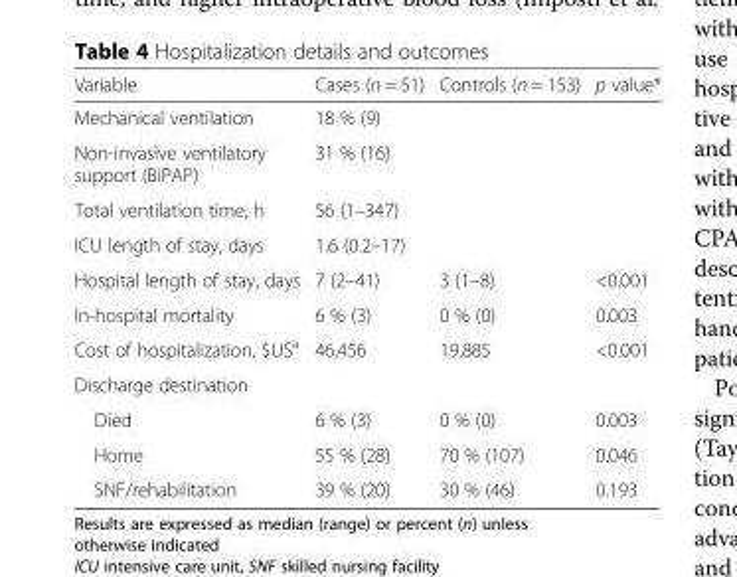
<table><thead><tr><td>Variable</td><td>Cases (n = 51)</td><td>Controls (n = 153)</td><td>p value*</td></tr></thead><tbody><tr><td>Mechanical ventilation</td><td>18 % (9)</td><td></td><td></td></tr><tr><td>Non-invasive ventilatory support (BiPAP)</td><td>31 % (16)</td><td></td><td></td></tr><tr><td>Total ventilation time, h</td><td>56 (1–347)</td><td></td><td></td></tr><tr><td>ICU length of stay, days</td><td>1.6 (0.2–17)</td><td></td><td></td></tr><tr><td>Hospital length of stay, days</td><td>7 (2–41)</td><td>3 (1–8)</td><td>&lt;0.001</td></tr><tr><td>In-hospital mortality</td><td>6 % (3)</td><td>0 % (0)</td><td>0.003</td></tr><tr><td>Cost of hospitalization, $US<sup>a</sup></td><td>46,456</td><td>19,885</td><td>&lt;0.001</td></tr><tr><td colspan="4">Discharge destination</td></tr><tr><td>Died</td><td>6 % (3)</td><td>0 % (0)</td><td>0.003</td></tr><tr><td>Home</td><td>55 % (28)</td><td>70 % (107)</td><td>0.046</td></tr><tr><td>SNF/rehabilitation</td><td>39 % (20)</td><td>30 % (46)</td><td>0.193</td></tr></tbody></table>